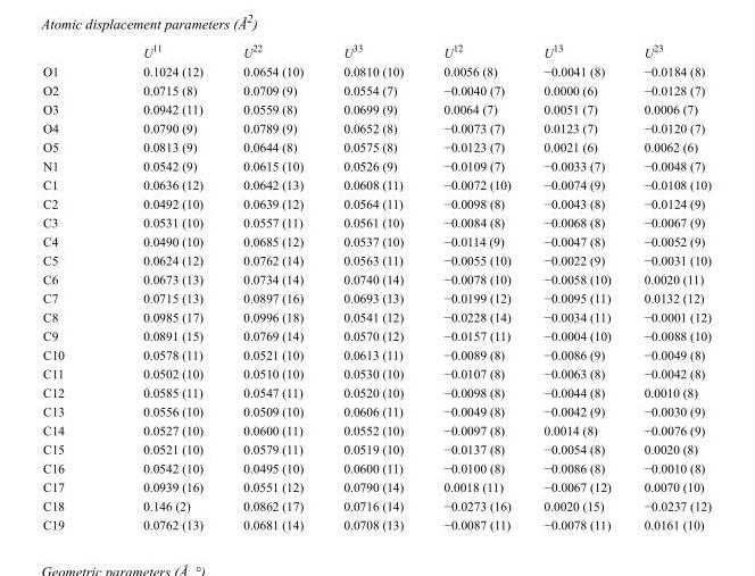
<table><thead><tr><td></td><td>U<sup>11</sup></td><td>U<sup>22</sup></td><td>U<sup>33</sup></td><td>U<sup>12</sup></td><td>U<sup>13</sup></td><td>U<sup>23</sup></td></tr></thead><tbody><tr><td>O1</td><td>0.1024 (12)</td><td>0.0654 (10)</td><td>0.0810 (10)</td><td>0.0056 (8)</td><td>−0.0041 (8)</td><td>−0.0184 (8)</td></tr><tr><td>O2</td><td>0.0715 (8)</td><td>0.0709 (9)</td><td>0.0554 (7)</td><td>−0.0040 (7)</td><td>0.0000 (6)</td><td>−0.0128 (7)</td></tr><tr><td>O3</td><td>0.0942 (11)</td><td>0.0559 (8)</td><td>0.0699 (9)</td><td>0.0064 (7)</td><td>0.0051 (7)</td><td>0.0006 (7)</td></tr><tr><td>O4</td><td>0.0790 (9)</td><td>0.0789 (9)</td><td>0.0652 (8)</td><td>−0.0073 (7)</td><td>0.0123 (7)</td><td>−0.0120 (7)</td></tr><tr><td>O5</td><td>0.0813 (9)</td><td>0.0644 (8)</td><td>0.0575 (8)</td><td>−0.0123 (7)</td><td>0.0021 (6)</td><td>0.0062 (6)</td></tr><tr><td>N1</td><td>0.0542 (9)</td><td>0.0615 (10)</td><td>0.0526 (9)</td><td>−0.0109 (7)</td><td>−0.0033 (7)</td><td>−0.0048 (7)</td></tr><tr><td>C1</td><td>0.0636 (12)</td><td>0.0642 (13)</td><td>0.0608 (11)</td><td>−0.0072 (10)</td><td>−0.0074 (9)</td><td>−0.0108 (10)</td></tr><tr><td>C2</td><td>0.0492 (10)</td><td>0.0639 (12)</td><td>0.0564 (11)</td><td>−0.0098 (8)</td><td>−0.0043 (8)</td><td>−0.0124 (9)</td></tr><tr><td>C3</td><td>0.0531 (10)</td><td>0.0557 (11)</td><td>0.0561 (10)</td><td>−0.0084 (8)</td><td>−0.0068 (8)</td><td>−0.0067 (9)</td></tr><tr><td>C4</td><td>0.0490 (10)</td><td>0.0685 (12)</td><td>0.0537 (10)</td><td>−0.0114 (9)</td><td>−0.0047 (8)</td><td>−0.0052 (9)</td></tr><tr><td>C5</td><td>0.0624 (12)</td><td>0.0762 (14)</td><td>0.0563 (11)</td><td>−0.0055 (10)</td><td>−0.0022 (9)</td><td>−0.0031 (10)</td></tr><tr><td>C6</td><td>0.0673 (13)</td><td>0.0734 (14)</td><td>0.0740 (14)</td><td>−0.0078 (10)</td><td>−0.0058 (10)</td><td>0.0020 (11)</td></tr><tr><td>C7</td><td>0.0715 (13)</td><td>0.0897 (16)</td><td>0.0693 (13)</td><td>−0.0199 (12)</td><td>−0.0095 (11)</td><td>0.0132 (12)</td></tr><tr><td>C8</td><td>0.0985 (17)</td><td>0.0996 (18)</td><td>0.0541 (12)</td><td>−0.0228 (14)</td><td>−0.0034 (11)</td><td>−0.0001 (12)</td></tr><tr><td>C9</td><td>0.0891 (15)</td><td>0.0769 (14)</td><td>0.0570 (12)</td><td>−0.0157 (11)</td><td>−0.0004 (10)</td><td>−0.0088 (10)</td></tr><tr><td>C10</td><td>0.0578 (11)</td><td>0.0521 (10)</td><td>0.0613 (11)</td><td>−0.0089 (8)</td><td>−0.0086 (9)</td><td>−0.0049 (8)</td></tr><tr><td>C11</td><td>0.0502 (10)</td><td>0.0510 (10)</td><td>0.0530 (10)</td><td>−0.0107 (8)</td><td>−0.0063 (8)</td><td>−0.0042 (8)</td></tr><tr><td>C12</td><td>0.0585 (11)</td><td>0.0547 (11)</td><td>0.0520 (10)</td><td>−0.0098 (8)</td><td>−0.0044 (8)</td><td>0.0010 (8)</td></tr><tr><td>C13</td><td>0.0556 (10)</td><td>0.0509 (10)</td><td>0.0606 (11)</td><td>−0.0049 (8)</td><td>−0.0042 (9)</td><td>−0.0030 (9)</td></tr><tr><td>C14</td><td>0.0527 (10)</td><td>0.0600 (11)</td><td>0.0552 (10)</td><td>−0.0097 (8)</td><td>0.0014 (8)</td><td>−0.0076 (9)</td></tr><tr><td>C15</td><td>0.0521 (10)</td><td>0.0579 (11)</td><td>0.0519 (10)</td><td>−0.0137 (8)</td><td>−0.0054 (8)</td><td>0.0020 (8)</td></tr><tr><td>C16</td><td>0.0542 (10)</td><td>0.0495 (10)</td><td>0.0600 (11)</td><td>−0.0100 (8)</td><td>−0.0086 (8)</td><td>−0.0010 (8)</td></tr><tr><td>C17</td><td>0.0939 (16)</td><td>0.0551 (12)</td><td>0.0790 (14)</td><td>0.0018 (11)</td><td>−0.0067 (12)</td><td>0.0070 (10)</td></tr><tr><td>C18</td><td>0.146 (2)</td><td>0.0862 (17)</td><td>0.0716 (14)</td><td>−0.0273 (16)</td><td>0.0020 (15)</td><td>−0.0237 (12)</td></tr><tr><td>C19</td><td>0.0762 (13)</td><td>0.0681 (14)</td><td>0.0708 (13)</td><td>−0.0087 (11)</td><td>−0.0078 (11)</td><td>0.0161 (10)</td></tr></tbody></table>